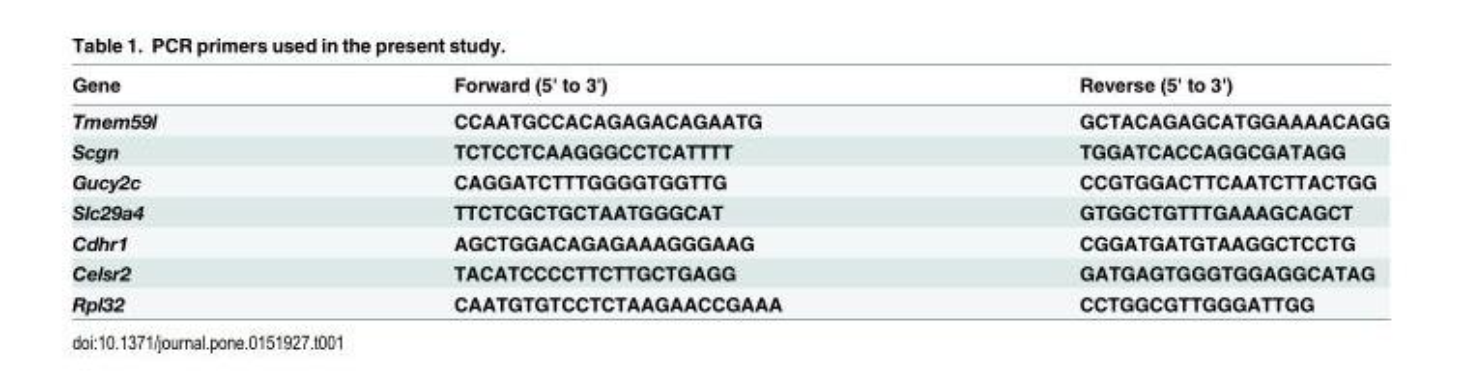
<table><thead><tr><td>Gene</td><td>Forward (5&#x27; to 3&#x27;)</td><td>Reverse (5&#x27; to 3&#x27;)</td></tr></thead><tbody><tr><td>Tmem59l</td><td>CCAATGCCACAGAGACAGAATG</td><td>GCTACAGAGCATGGAAAACAGG</td></tr><tr><td>Scgn</td><td>TCTCCTCAAGGGCCTCATTTT</td><td>TGGATCACCAGGCGATAGG</td></tr><tr><td>Gucy2c</td><td>CAGGATCTTTGGGGTGGTTG</td><td>CCGTGGACTTCAATCTTACTGG</td></tr><tr><td>Slc29a4</td><td>TTCTCGCTGCTAATGGGCAT</td><td>GTGGCTGTTTGAAAGCAGCT</td></tr><tr><td>Cdhr1</td><td>AGCTGGACAGAGAAAGGGAAG</td><td>CGGATGATGTAAGGCTCCTG</td></tr><tr><td>Celsr2</td><td>TACATCCCCTTCTTGCTGAGG</td><td>GATGAGTGGGTGGAGGCATAG</td></tr><tr><td>Rpl32</td><td>CAATGTGTCCTCTAAGAACCGAAA</td><td>CCTGGCGTTGGGATTGG</td></tr></tbody></table>